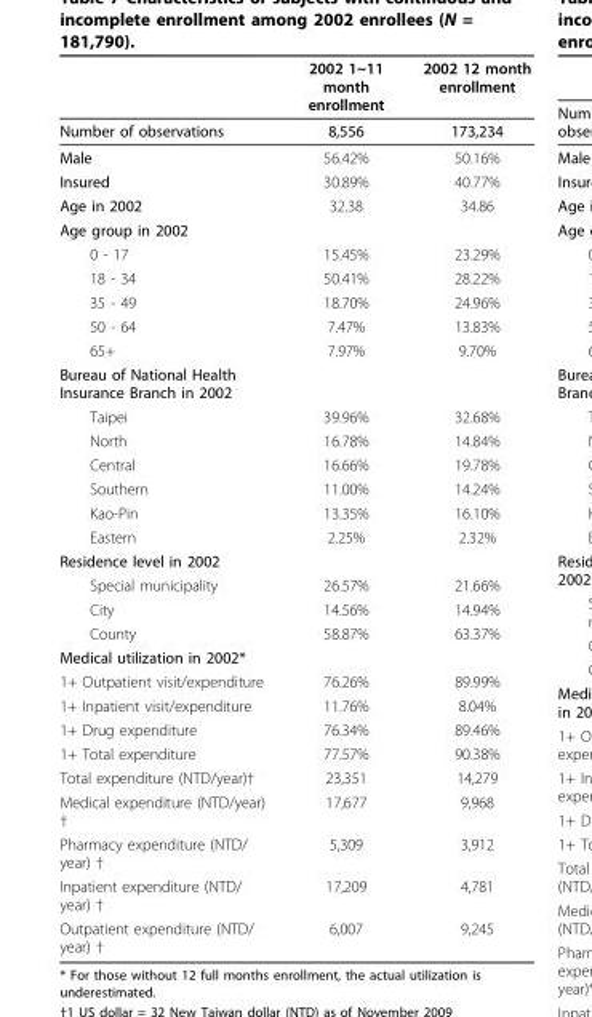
<table><thead><tr><td></td><td>2002 1~11 month enrollment</td><td>2002 12 month enrollment</td></tr></thead><tbody><tr><td>Number of observations</td><td>8,556</td><td>173,234</td></tr><tr><td>Male</td><td>56.42%</td><td>50.16%</td></tr><tr><td>Insured</td><td>30.89%</td><td>40.77%</td></tr><tr><td>Age in 2002</td><td>32.38</td><td>34.86</td></tr><tr><td colspan="3">Age group in 2002</td></tr><tr><td>0 - 17</td><td>15.45%</td><td>23.29%</td></tr><tr><td>18 - 34</td><td>50.41%</td><td>28.22%</td></tr><tr><td>35 - 49</td><td>18.70%</td><td>24.96%</td></tr><tr><td>50 - 64</td><td>7.47%</td><td>13.83%</td></tr><tr><td>65+</td><td>7.97%</td><td>9.70%</td></tr><tr><td colspan="3">Bureau of National Health Insurance Branch in 2002</td></tr><tr><td>Taipei</td><td>39.96%</td><td>32.68%</td></tr><tr><td>North</td><td>16.78%</td><td>14.84%</td></tr><tr><td>Central</td><td>16.66%</td><td>19.78%</td></tr><tr><td>Southern</td><td>11.00%</td><td>14.24%</td></tr><tr><td>Kao-Pin</td><td>13.35%</td><td>16.10%</td></tr><tr><td>Eastern</td><td>2.25%</td><td>2.32%</td></tr><tr><td colspan="3">Residence level in 2002</td></tr><tr><td>Special municipality</td><td>26.57%</td><td>21.66%</td></tr><tr><td>City</td><td>14.56%</td><td>14.94%</td></tr><tr><td>County</td><td>58.87%</td><td>63.37%</td></tr><tr><td colspan="3">Medical utilization in 2002*</td></tr><tr><td>1+ Outpatient visit/expenditure</td><td>76.26%</td><td>89.99%</td></tr><tr><td>1+ Inpatient visit/expenditure</td><td>11.76%</td><td>8.04%</td></tr><tr><td>1+ Drug expenditure</td><td>76.34%</td><td>89.46%</td></tr><tr><td>1+ Total expenditure</td><td>77.57%</td><td>90.38%</td></tr><tr><td>Total expenditure (NTD/year)†</td><td>23,351</td><td>14,279</td></tr><tr><td>Medical expenditure (NTD/year) †</td><td>17,677</td><td>9,968</td></tr><tr><td>Pharmacy expenditure (NTD/ year) †</td><td>5,309</td><td>3,912</td></tr><tr><td>Inpatient expenditure (NTD/ year) †</td><td>17,209</td><td>4,781</td></tr><tr><td>Outpatient expenditure (NTD/ year) †</td><td>6,007</td><td>9,245</td></tr></tbody></table>